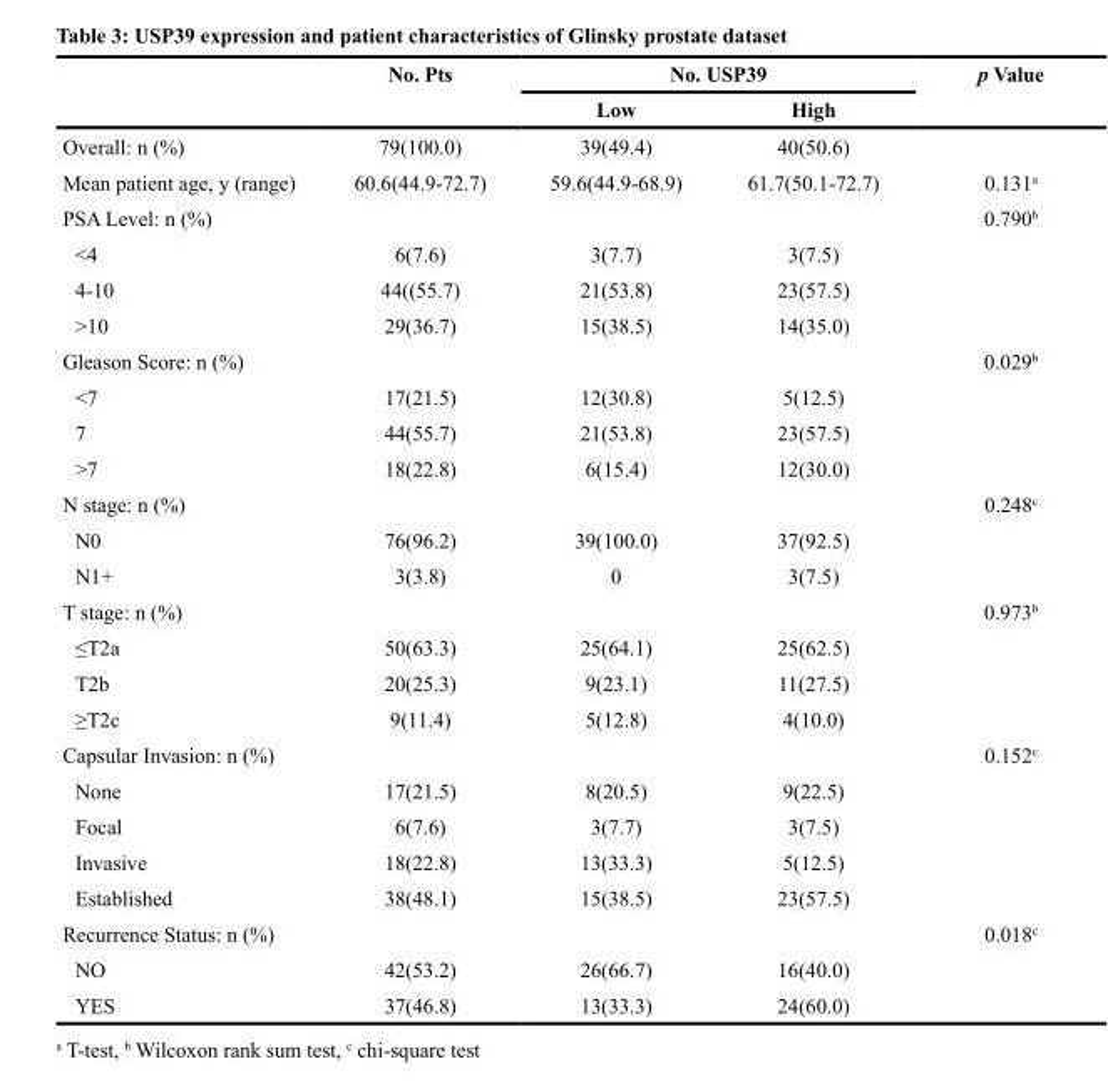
<table><thead><tr><td rowspan="2"></td><td rowspan="2">No. Pts</td><td colspan="2">No. USP39</td><td rowspan="2">p Value</td></tr><tr><td>Low</td><td>High</td></tr></thead><tbody><tr><td>Overall: n (%)</td><td>79(100.0)</td><td>39(49.4)</td><td>40(50.6)</td><td></td></tr><tr><td>Mean patient age, y (range)</td><td>60.6(44.9-72.7)</td><td>59.6(44.9-68.9)</td><td>61.7(50.1-72.7)</td><td>0.131<sup>a</sup></td></tr><tr><td>PSA Level: n (%)</td><td></td><td></td><td></td><td>0.790<sup>b</sup></td></tr><tr><td>&lt;4</td><td>6(7.6)</td><td>3(7.7)</td><td>3(7.5)</td><td></td></tr><tr><td>4-10</td><td>44((55.7)</td><td>21(53.8)</td><td>23(57.5)</td><td></td></tr><tr><td>&gt;10</td><td>29(36.7)</td><td>15(38.5)</td><td>14(35.0)</td><td></td></tr><tr><td>Gleason Score: n (%)</td><td></td><td></td><td></td><td>0.029<sup>b</sup></td></tr><tr><td>&lt;7</td><td>17(21.5)</td><td>12(30.8)</td><td>5(12.5)</td><td></td></tr><tr><td>7</td><td>44(55.7)</td><td>21(53.8)</td><td>23(57.5)</td><td></td></tr><tr><td>&gt;7</td><td>18(22.8)</td><td>6(15.4)</td><td>12(30.0)</td><td></td></tr><tr><td>N stage: n (%)</td><td></td><td></td><td></td><td>0.248<sup>c</sup></td></tr><tr><td>N0</td><td>76(96.2)</td><td>39(100.0)</td><td>37(92.5)</td><td></td></tr><tr><td>N1+</td><td>3(3.8)</td><td>0</td><td>3(7.5)</td><td></td></tr><tr><td>T stage: n (%)</td><td></td><td></td><td></td><td>0.973<sup>b</sup></td></tr><tr><td>≤T2a</td><td>50(63.3)</td><td>25(64.1)</td><td>25(62.5)</td><td></td></tr><tr><td>T2b</td><td>20(25.3)</td><td>9(23.1)</td><td>11(27.5)</td><td></td></tr><tr><td>≥T2c</td><td>9(11.4)</td><td>5(12.8)</td><td>4(10.0)</td><td></td></tr><tr><td>Capsular Invasion: n (%)</td><td></td><td></td><td></td><td>0.152<sup>c</sup></td></tr><tr><td>None</td><td>17(21.5)</td><td>8(20.5)</td><td>9(22.5)</td><td></td></tr><tr><td>Focal</td><td>6(7.6)</td><td>3(7.7)</td><td>3(7.5)</td><td></td></tr><tr><td>Invasive</td><td>18(22.8)</td><td>13(33.3)</td><td>5(12.5)</td><td></td></tr><tr><td>Established</td><td>38(48.1)</td><td>15(38.5)</td><td>23(57.5)</td><td></td></tr><tr><td>Recurrence Status: n (%)</td><td></td><td></td><td></td><td>0.018<sup>c</sup></td></tr><tr><td>NO</td><td>42(53.2)</td><td>26(66.7)</td><td>16(40.0)</td><td></td></tr><tr><td>YES</td><td>37(46.8)</td><td>13(33.3)</td><td>24(60.0)</td><td></td></tr></tbody></table>